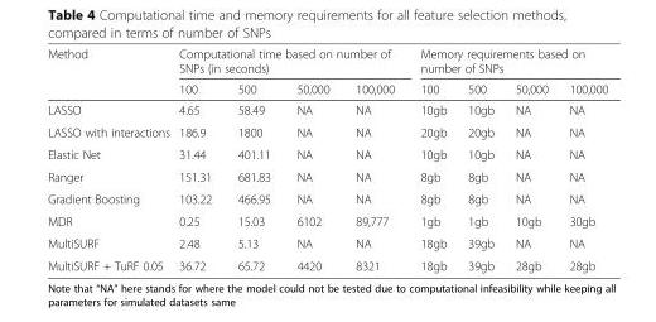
<table><thead><tr><td rowspan="2">Method</td><td colspan="4">Computational time based on number of SNPs (in seconds)</td><td colspan="4">Memory requirements based on number of SNPs</td></tr><tr><td>100</td><td>500</td><td>50,000</td><td>100,000</td><td>100</td><td>500</td><td>50,000</td><td>100,000</td></tr></thead><tbody><tr><td>LASSO</td><td>4.65</td><td>58.49</td><td>NA</td><td>NA</td><td>10gb</td><td>10gb</td><td>NA</td><td>NA</td></tr><tr><td>LASSO with interactions</td><td>186.9</td><td>1800</td><td>NA</td><td>NA</td><td>20gb</td><td>20gb</td><td>NA</td><td>NA</td></tr><tr><td>Elastic Net</td><td>31.44</td><td>401.11</td><td>NA</td><td>NA</td><td>10gb</td><td>10gb</td><td>NA</td><td>NA</td></tr><tr><td>Ranger</td><td>151.31</td><td>681.83</td><td>NA</td><td>NA</td><td>8gb</td><td>8gb</td><td>NA</td><td>NA</td></tr><tr><td>Gradient Boosting</td><td>103.22</td><td>466.95</td><td>NA</td><td>NA</td><td>8gb</td><td>8gb</td><td>NA</td><td>NA</td></tr><tr><td>MDR</td><td>0.25</td><td>15.03</td><td>6102</td><td>89,777</td><td>1gb</td><td>1gb</td><td>10gb</td><td>30gb</td></tr><tr><td>MultiSURF</td><td>2.48</td><td>5.13</td><td>NA</td><td>NA</td><td>18gb</td><td>39gb</td><td>NA</td><td>NA</td></tr><tr><td>MultiSURF + TuRF 0.05</td><td>36.72</td><td>65.72</td><td>4420</td><td>8321</td><td>18gb</td><td>39gb</td><td>28gb</td><td>28gb</td></tr></tbody></table>